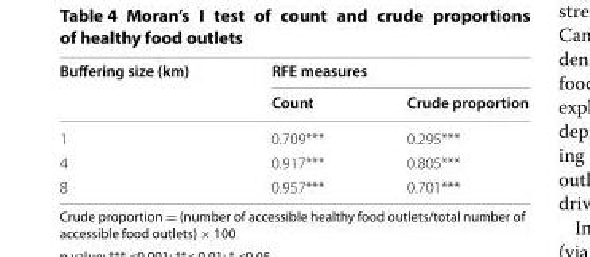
<table><thead><tr><td rowspan="2">Buffering size (km)</td><td colspan="2">RFE measures</td></tr><tr><td>Count</td><td>Crude proportion</td></tr></thead><tbody><tr><td>1</td><td>0.709***</td><td>0.295***</td></tr><tr><td>4</td><td>0.917***</td><td>0.805***</td></tr><tr><td>8</td><td>0.957***</td><td>0.701***</td></tr></tbody></table>